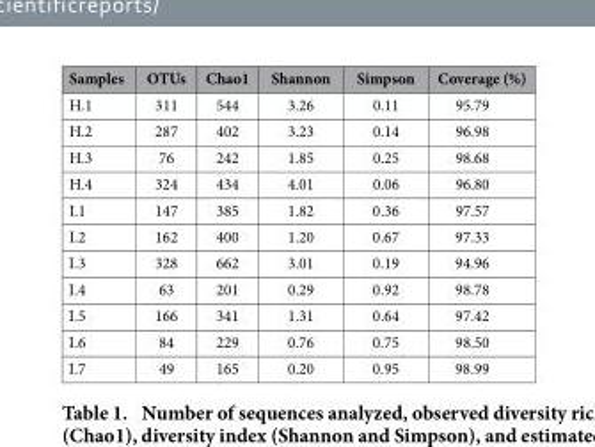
<table><thead><tr><td>Samples</td><td>OTUs</td><td>Chao1</td><td>Shannon</td><td>Simpson</td><td>Coverage (%)</td></tr></thead><tbody><tr><td>H.1</td><td>311</td><td>544</td><td>3.26</td><td>0.11</td><td>95.79</td></tr><tr><td>H.2</td><td>287</td><td>402</td><td>3.23</td><td>0.14</td><td>96.98</td></tr><tr><td>H.3</td><td>76</td><td>242</td><td>1.85</td><td>0.25</td><td>98.68</td></tr><tr><td>H.4</td><td>324</td><td>434</td><td>4.01</td><td>0.06</td><td>96.80</td></tr><tr><td>I.1</td><td>147</td><td>385</td><td>1.82</td><td>0.36</td><td>97.57</td></tr><tr><td>I.2</td><td>162</td><td>400</td><td>1.20</td><td>0.67</td><td>97.33</td></tr><tr><td>I.3</td><td>328</td><td>662</td><td>3.01</td><td>0.19</td><td>94.96</td></tr><tr><td>I.4</td><td>63</td><td>201</td><td>0.29</td><td>0.92</td><td>98.78</td></tr><tr><td>I.5</td><td>166</td><td>341</td><td>1.31</td><td>0.64</td><td>97.42</td></tr><tr><td>I.6</td><td>84</td><td>229</td><td>0.76</td><td>0.75</td><td>98.50</td></tr><tr><td>I.7</td><td>49</td><td>165</td><td>0.20</td><td>0.95</td><td>98.99</td></tr></tbody></table>